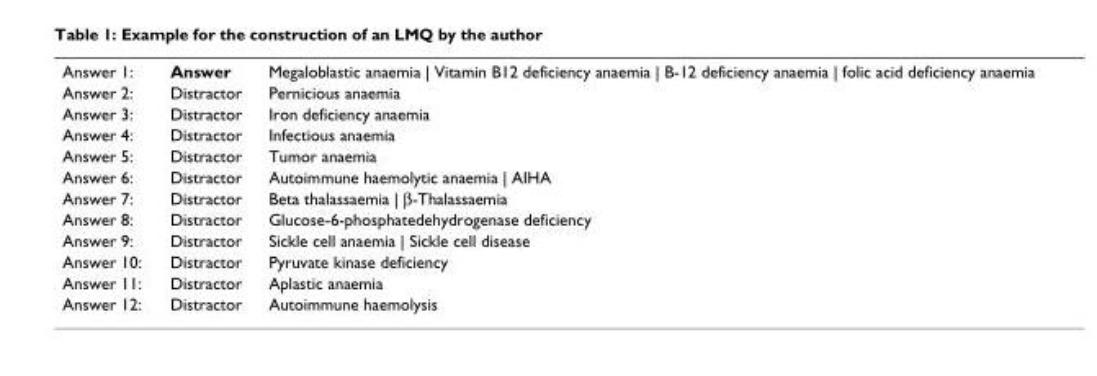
<table><tbody><tr><td>Answer 1:</td><td>Answer</td><td>Megaloblastic anaemia | Vitamin B12 deficiency anaemia | B-12 deficiency anaemia | folic acid deficiency anaemia</td></tr><tr><td>Answer 2:</td><td>Distractor</td><td>Pernicious anaemia</td></tr><tr><td>Answer 3:</td><td>Distractor</td><td>Iron deficiency anaemia</td></tr><tr><td>Answer 4:</td><td>Distractor</td><td>Infectious anaemia</td></tr><tr><td>Answer 5:</td><td>Distractor</td><td>Tumor anaemia</td></tr><tr><td>Answer 6:</td><td>Distractor</td><td>Autoimmune haemolytic anaemia | AIHA</td></tr><tr><td>Answer 7:</td><td>Distractor</td><td>Beta thalassaemia | β-Thalassaemia</td></tr><tr><td>Answer 8:</td><td>Distractor</td><td>Glucose-6-phosphatedehydrogenase deficiency</td></tr><tr><td>Answer 9:</td><td>Distractor</td><td>Sickle cell anaemia | Sickle cell disease</td></tr><tr><td>Answer 10:</td><td>Distractor</td><td>Pyruvate kinase deficiency</td></tr><tr><td>Answer 11:</td><td>Distractor</td><td>Aplastic anaemia</td></tr><tr><td>Answer 12:</td><td>Distractor</td><td>Autoimmune haemolysis</td></tr></tbody></table>